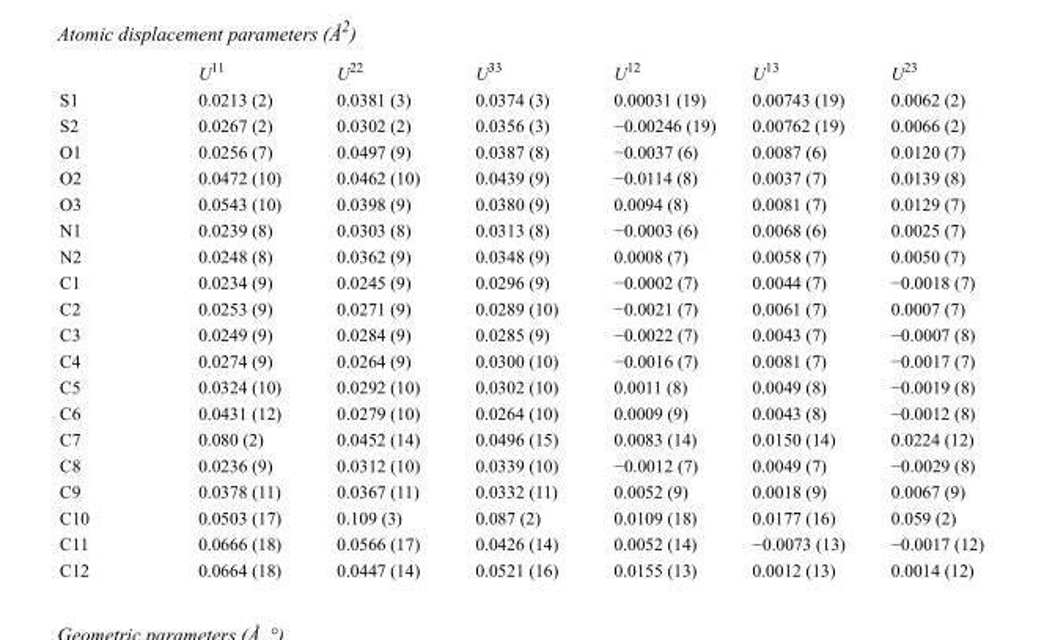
<table><thead><tr><td></td><td>U<sup>11</sup></td><td>U<sup>22</sup></td><td>U<sup>33</sup></td><td>U<sup>12</sup></td><td>U<sup>13</sup></td><td>U<sup>23</sup></td></tr></thead><tbody><tr><td>S1</td><td>0.0213 (2)</td><td>0.0381 (3)</td><td>0.0374 (3)</td><td>0.00031 (19)</td><td>0.00743 (19)</td><td>0.0062 (2)</td></tr><tr><td>S2</td><td>0.0267 (2)</td><td>0.0302 (2)</td><td>0.0356 (3)</td><td>−0.00246 (19)</td><td>0.00762 (19)</td><td>0.0066 (2)</td></tr><tr><td>O1</td><td>0.0256 (7)</td><td>0.0497 (9)</td><td>0.0387 (8)</td><td>−0.0037 (6)</td><td>0.0087 (6)</td><td>0.0120 (7)</td></tr><tr><td>O2</td><td>0.0472 (10)</td><td>0.0462 (10)</td><td>0.0439 (9)</td><td>−0.0114 (8)</td><td>0.0037 (7)</td><td>0.0139 (8)</td></tr><tr><td>O3</td><td>0.0543 (10)</td><td>0.0398 (9)</td><td>0.0380 (9)</td><td>0.0094 (8)</td><td>0.0081 (7)</td><td>0.0129 (7)</td></tr><tr><td>N1</td><td>0.0239 (8)</td><td>0.0303 (8)</td><td>0.0313 (8)</td><td>−0.0003 (6)</td><td>0.0068 (6)</td><td>0.0025 (7)</td></tr><tr><td>N2</td><td>0.0248 (8)</td><td>0.0362 (9)</td><td>0.0348 (9)</td><td>0.0008 (7)</td><td>0.0058 (7)</td><td>0.0050 (7)</td></tr><tr><td>C1</td><td>0.0234 (9)</td><td>0.0245 (9)</td><td>0.0296 (9)</td><td>−0.0002 (7)</td><td>0.0044 (7)</td><td>−0.0018 (7)</td></tr><tr><td>C2</td><td>0.0253 (9)</td><td>0.0271 (9)</td><td>0.0289 (10)</td><td>−0.0021 (7)</td><td>0.0061 (7)</td><td>0.0007 (7)</td></tr><tr><td>C3</td><td>0.0249 (9)</td><td>0.0284 (9)</td><td>0.0285 (9)</td><td>−0.0022 (7)</td><td>0.0043 (7)</td><td>−0.0007 (8)</td></tr><tr><td>C4</td><td>0.0274 (9)</td><td>0.0264 (9)</td><td>0.0300 (10)</td><td>−0.0016 (7)</td><td>0.0081 (7)</td><td>−0.0017 (7)</td></tr><tr><td>C5</td><td>0.0324 (10)</td><td>0.0292 (10)</td><td>0.0302 (10)</td><td>0.0011 (8)</td><td>0.0049 (8)</td><td>−0.0019 (8)</td></tr><tr><td>C6</td><td>0.0431 (12)</td><td>0.0279 (10)</td><td>0.0264 (10)</td><td>0.0009 (9)</td><td>0.0043 (8)</td><td>−0.0012 (8)</td></tr><tr><td>C7</td><td>0.080 (2)</td><td>0.0452 (14)</td><td>0.0496 (15)</td><td>0.0083 (14)</td><td>0.0150 (14)</td><td>0.0224 (12)</td></tr><tr><td>C8</td><td>0.0236 (9)</td><td>0.0312 (10)</td><td>0.0339 (10)</td><td>−0.0012 (7)</td><td>0.0049 (7)</td><td>−0.0029 (8)</td></tr><tr><td>C9</td><td>0.0378 (11)</td><td>0.0367 (11)</td><td>0.0332 (11)</td><td>0.0052 (9)</td><td>0.0018 (9)</td><td>0.0067 (9)</td></tr><tr><td>C10</td><td>0.0503 (17)</td><td>0.109 (3)</td><td>0.087 (2)</td><td>0.0109 (18)</td><td>0.0177 (16)</td><td>0.059 (2)</td></tr><tr><td>C11</td><td>0.0666 (18)</td><td>0.0566 (17)</td><td>0.0426 (14)</td><td>0.0052 (14)</td><td>−0.0073 (13)</td><td>−0.0017 (12)</td></tr><tr><td>C12</td><td>0.0664 (18)</td><td>0.0447 (14)</td><td>0.0521 (16)</td><td>0.0155 (13)</td><td>0.0012 (13)</td><td>0.0014 (12)</td></tr></tbody></table>